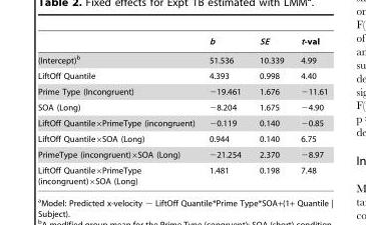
<table><thead><tr><td></td><td>b</td><td>SE</td><td>t-val</td></tr></thead><tbody><tr><td>(Intercept)<sup>b</sup></td><td>51.536</td><td>10.339</td><td>4.99</td></tr><tr><td>LiftOff Quantile</td><td>4.393</td><td>0.998</td><td>4.40</td></tr><tr><td>Prime Type (Incongruent)</td><td>−19.461</td><td>1.676</td><td>−11.61</td></tr><tr><td>SOA (Long)</td><td>−8.204</td><td>1.675</td><td>−4.90</td></tr><tr><td>LiftOff Quantile×PrimeType (incongruent)</td><td>−0.119</td><td>0.140</td><td>−0.85</td></tr><tr><td>LiftOff Quantile×SOA (Long)</td><td>0.944</td><td>0.140</td><td>6.75</td></tr><tr><td>PrimeType (incongruent)×SOA (Long)</td><td>−21.254</td><td>2.370</td><td>−8.97</td></tr><tr><td>LiftOff Quantile×PrimeType (incongruent)×SOA (Long)</td><td>1.481</td><td>0.198</td><td>7.48</td></tr></tbody></table>